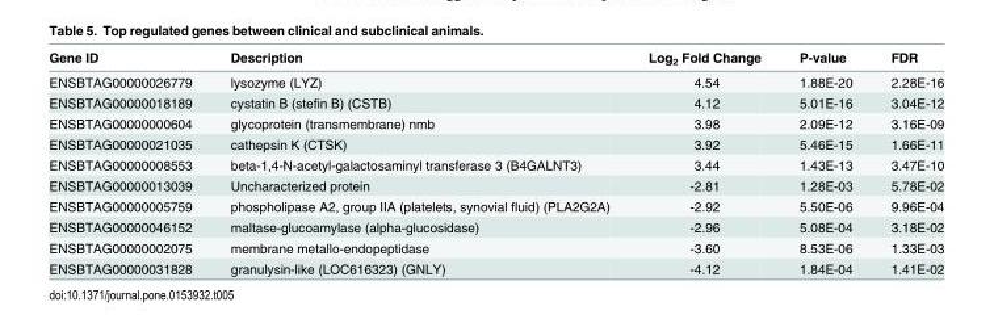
<table><thead><tr><td>Gene ID</td><td>Description</td><td>Log<sub>2</sub> Fold Change</td><td>P-value</td><td>FDR</td></tr></thead><tbody><tr><td>ENSBTAG00000026779</td><td>lysozyme (LYZ)</td><td>4.54</td><td>1.88E-20</td><td>2.28E-16</td></tr><tr><td>ENSBTAG00000018189</td><td>cystatin B (stefin B) (CSTB)</td><td>4.12</td><td>5.01E-16</td><td>3.04E-12</td></tr><tr><td>ENSBTAG00000000604</td><td>glycoprotein (transmembrane) nmb</td><td>3.98</td><td>2.09E-12</td><td>3.16E-09</td></tr><tr><td>ENSBTAG00000021035</td><td>cathepsin K (CTSK)</td><td>3.92</td><td>5.46E-15</td><td>1.66E-11</td></tr><tr><td>ENSBTAG00000008553</td><td>beta-1,4-N-acetyl-galactosaminyl transferase 3 (B4GALNT3)</td><td>3.44</td><td>1.43E-13</td><td>3.47E-10</td></tr><tr><td>ENSBTAG00000013039</td><td>Uncharacterized protein</td><td>-2.81</td><td>1.28E-03</td><td>5.78E-02</td></tr><tr><td>ENSBTAG00000005759</td><td>phospholipase A2, group IIA (platelets, synovial fluid) (PLA2G2A)</td><td>-2.92</td><td>5.50E-06</td><td>9.96E-04</td></tr><tr><td>ENSBTAG00000046152</td><td>maltase-glucoamylase (alpha-glucosidase)</td><td>-2.96</td><td>5.08E-04</td><td>3.18E-02</td></tr><tr><td>ENSBTAG00000002075</td><td>membrane metallo-endopeptidase</td><td>-3.60</td><td>8.53E-06</td><td>1.33E-03</td></tr><tr><td>ENSBTAG00000031828</td><td>granulysin-like (LOC616323) (GNLY)</td><td>-4.12</td><td>1.84E-04</td><td>1.41E-02</td></tr></tbody></table>